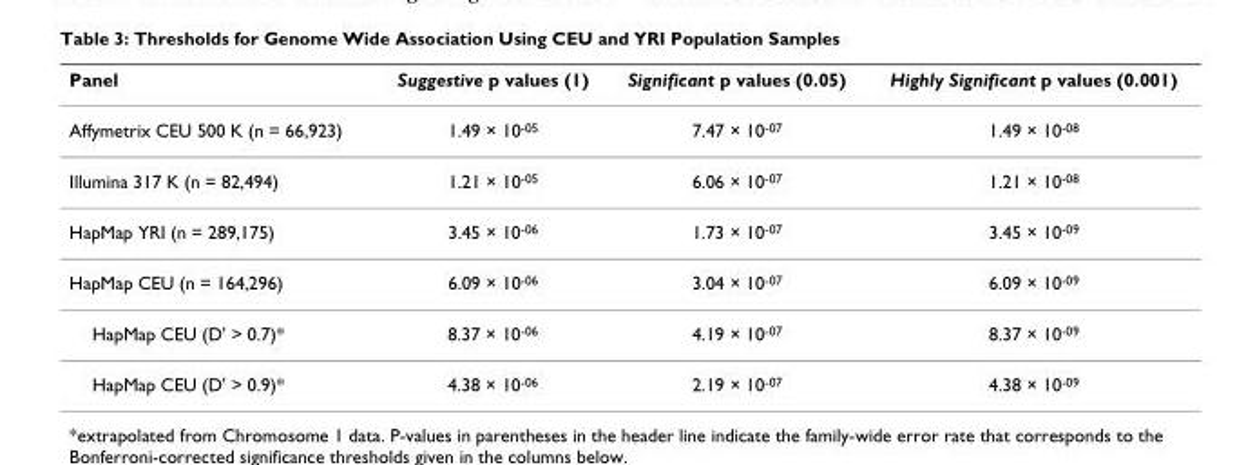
<table><thead><tr><td>Panel</td><td>Suggestive p values (1)</td><td>Significant p values (0.05)</td><td>Highly Significant p values (0.001)</td></tr></thead><tbody><tr><td>Affymetrix CEU 500 K (n = 66,923)</td><td>1.49 × 10<sup>-05</sup></td><td>7.47 × 10<sup>-07</sup></td><td>1.49 × 10<sup>-08</sup></td></tr><tr><td>Illumina 317 K (n = 82,494)</td><td>1.21 × 10<sup>-05</sup></td><td>6.06 × 10<sup>-07</sup></td><td>1.21 × 10<sup>-08</sup></td></tr><tr><td>HapMap YRI (n = 289,175)</td><td>3.45 × 10<sup>-06</sup></td><td>1.73 × 10<sup>-07</sup></td><td>3.45 × 10<sup>-09</sup></td></tr><tr><td>HapMap CEU (n = 164,296)</td><td>6.09 × 10<sup>-06</sup></td><td>3.04 × 10<sup>-07</sup></td><td>6.09 × 10<sup>-09</sup></td></tr><tr><td>HapMap CEU (D&#x27; &gt; 0.7)*</td><td>8.37 × 10<sup>-06</sup></td><td>4.19 × 10<sup>-07</sup></td><td>8.37 × 10<sup>-09</sup></td></tr><tr><td>HapMap CEU (D&#x27; &gt; 0.9)*</td><td>4.38 × 10<sup>-06</sup></td><td>2.19 × 10<sup>-07</sup></td><td>4.38 × 10<sup>-09</sup></td></tr></tbody></table>